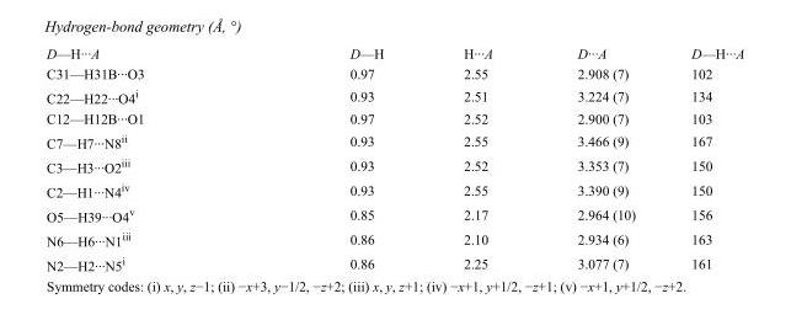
<table><tbody><tr><td>D—H···A</td><td>D—H</td><td>H···A</td><td>D···A</td><td>D—H···A</td></tr><tr><td>C31—H31B···O3</td><td>0.97</td><td>2.55</td><td>2.908 (7)</td><td>102</td></tr><tr><td>C22—H22···O4<sup>i</sup></td><td>0.93</td><td>2.51</td><td>3.224 (7)</td><td>134</td></tr><tr><td>C12—H12B···O1</td><td>0.97</td><td>2.52</td><td>2.900 (7)</td><td>103</td></tr><tr><td>C7—H7···N8<sup>ii</sup></td><td>0.93</td><td>2.55</td><td>3.466 (9)</td><td>167</td></tr><tr><td>C3—H3···O2<sup>iii</sup></td><td>0.93</td><td>2.52</td><td>3.353 (7)</td><td>150</td></tr><tr><td>C2—H1···N4<sup>iv</sup></td><td>0.93</td><td>2.55</td><td>3.390 (9)</td><td>150</td></tr><tr><td>O5—H39···O4<sup>v</sup></td><td>0.85</td><td>2.17</td><td>2.964 (10)</td><td>156</td></tr><tr><td>N6—H6···N1<sup>iii</sup></td><td>0.86</td><td>2.10</td><td>2.934 (6)</td><td>163</td></tr><tr><td>N2—H2···N5<sup>i</sup></td><td>0.86</td><td>2.25</td><td>3.077 (7)</td><td>161</td></tr></tbody></table>